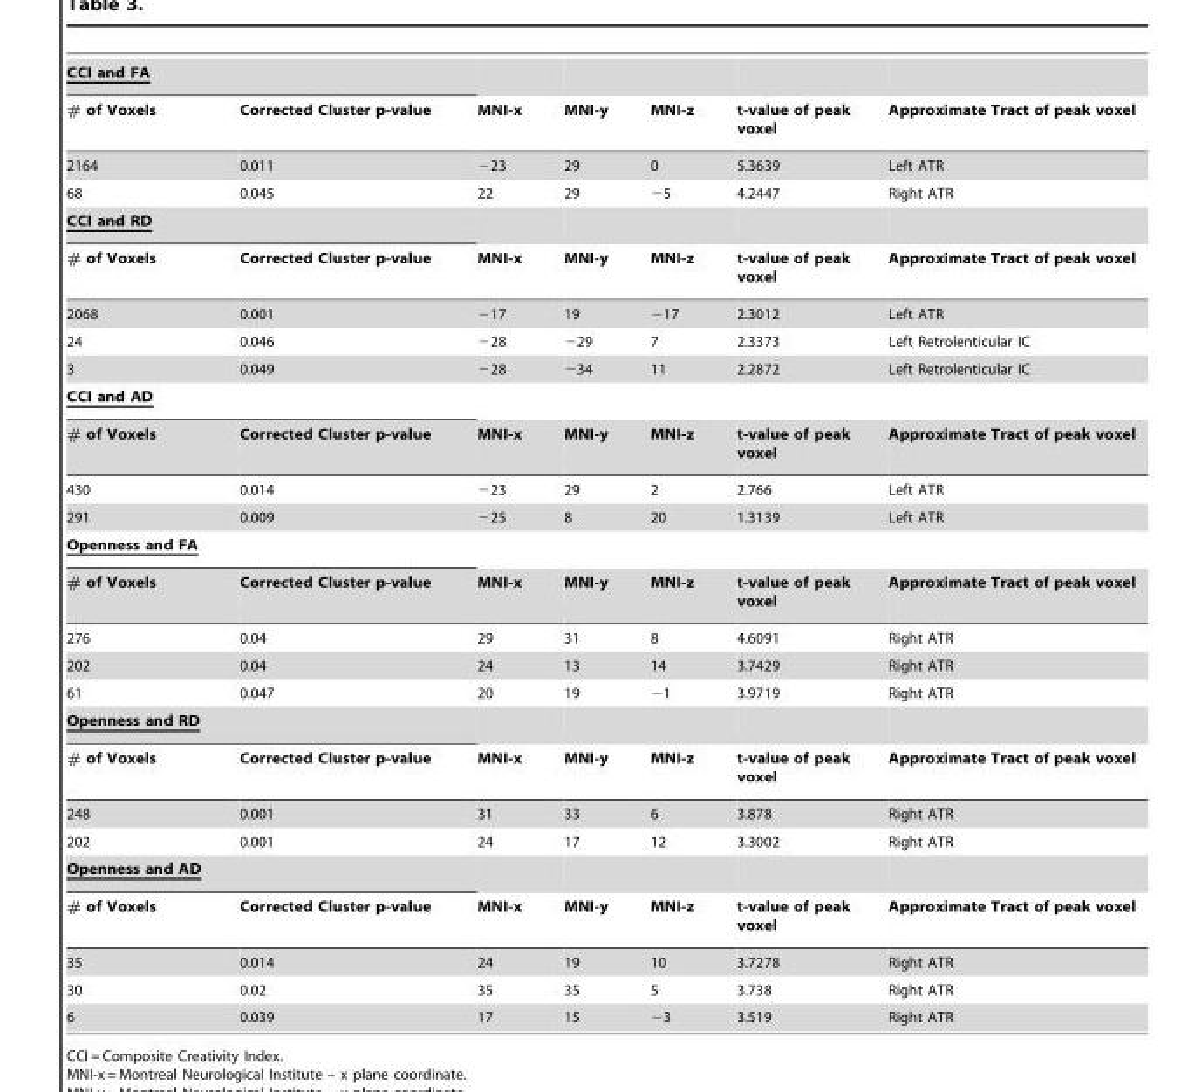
<table><tbody><tr><td colspan="7">CCI and FA</td></tr><tr><td># of Voxels</td><td>Corrected Cluster p-value</td><td>MNI-x</td><td>MNI-y</td><td>MNI-z</td><td>t-value of peak voxel</td><td>Approximate Tract of peak voxel</td></tr><tr><td>2164</td><td>0.011</td><td>−23</td><td>29</td><td>0</td><td>5.3639</td><td>Left ATR</td></tr><tr><td>68</td><td>0.045</td><td>22</td><td>29</td><td>−5</td><td>4.2447</td><td>Right ATR</td></tr><tr><td colspan="7">CCI and RD</td></tr><tr><td># of Voxels</td><td>Corrected Cluster p-value</td><td>MNI-x</td><td>MNI-y</td><td>MNI-z</td><td>t-value of peak voxel</td><td>Approximate Tract of peak voxel</td></tr><tr><td>2068</td><td>0.001</td><td>−17</td><td>19</td><td>−17</td><td>2.3012</td><td>Left ATR</td></tr><tr><td>24</td><td>0.046</td><td>−28</td><td>−29</td><td>7</td><td>2.3373</td><td>Left Retrolenticular IC</td></tr><tr><td>3</td><td>0.049</td><td>−28</td><td>−34</td><td>11</td><td>2.2872</td><td>Left Retrolenticular IC</td></tr><tr><td colspan="7">CCI and AD</td></tr><tr><td># of Voxels</td><td>Corrected Cluster p-value</td><td>MNI-x</td><td>MNI-y</td><td>MNI-z</td><td>t-value of peak voxel</td><td>Approximate Tract of peak voxel</td></tr><tr><td>430</td><td>0.014</td><td>−23</td><td>29</td><td>2</td><td>2.766</td><td>Left ATR</td></tr><tr><td>291</td><td>0.009</td><td>−25</td><td>8</td><td>20</td><td>1.3139</td><td>Left ATR</td></tr><tr><td colspan="7">Openness and FA</td></tr><tr><td># of Voxels</td><td>Corrected Cluster p-value</td><td>MNI-x</td><td>MNI-y</td><td>MNI-z</td><td>t-value of peak voxel</td><td>Approximate Tract of peak voxel</td></tr><tr><td>276</td><td>0.04</td><td>29</td><td>31</td><td>8</td><td>4.6091</td><td>Right ATR</td></tr><tr><td>202</td><td>0.04</td><td>24</td><td>13</td><td>14</td><td>3.7429</td><td>Right ATR</td></tr><tr><td>61</td><td>0.047</td><td>20</td><td>19</td><td>−1</td><td>3.9719</td><td>Right ATR</td></tr><tr><td colspan="7">Openness and RD</td></tr><tr><td># of Voxels</td><td>Corrected Cluster p-value</td><td>MNI-x</td><td>MNI-y</td><td>MNI-z</td><td>t-value of peak voxel</td><td>Approximate Tract of peak voxel</td></tr><tr><td>248</td><td>0.001</td><td>31</td><td>33</td><td>6</td><td>3.878</td><td>Right ATR</td></tr><tr><td>202</td><td>0.001</td><td>24</td><td>17</td><td>12</td><td>3.3002</td><td>Right ATR</td></tr><tr><td colspan="7">Openness and AD</td></tr><tr><td># of Voxels</td><td>Corrected Cluster p-value</td><td>MNI-x</td><td>MNI-y</td><td>MNI-z</td><td>t-value of peak voxel</td><td>Approximate Tract of peak voxel</td></tr><tr><td>35</td><td>0.014</td><td>24</td><td>19</td><td>10</td><td>3.7278</td><td>Right ATR</td></tr><tr><td>30</td><td>0.02</td><td>35</td><td>35</td><td>5</td><td>3.738</td><td>Right ATR</td></tr><tr><td>6</td><td>0.039</td><td>17</td><td>15</td><td>−3</td><td>3.519</td><td>Right ATR</td></tr></tbody></table>